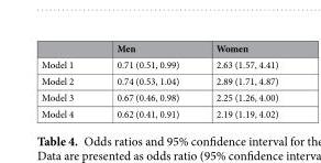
<table><thead><tr><td></td><td>Men</td><td>Women</td></tr></thead><tbody><tr><td>Model 1</td><td>0.71 (0.51, 0.99)</td><td>2.63 (1.57, 4.41)</td></tr><tr><td>Model 2</td><td>0.74 (0.53, 1.04)</td><td>2.89 (1.71, 4.87)</td></tr><tr><td>Model 3</td><td>0.67 (0.46, 0.98)</td><td>2.25 (1.26, 4.00)</td></tr><tr><td>Model 4</td><td>0.62 (0.41, 0.91)</td><td>2.19 (1.19, 4.02)</td></tr></tbody></table>